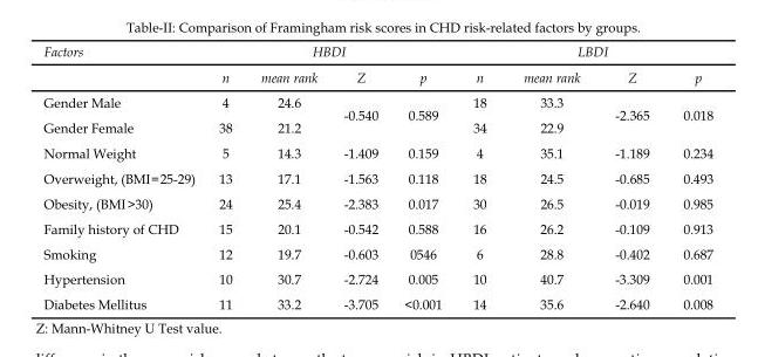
<table><thead><tr><td rowspan="2">Factors</td><td colspan="4">HBDI</td><td colspan="4">LBDI</td></tr><tr><td>n</td><td>mean rank</td><td>Z</td><td>p</td><td>n</td><td>mean rank</td><td>Z</td><td>p</td></tr></thead><tbody><tr><td>Gender Male</td><td>4</td><td>24.6</td><td rowspan="2">-0.540</td><td rowspan="2">0.589</td><td>18</td><td>33.3</td><td rowspan="2">-2.365</td><td rowspan="2">0.018</td></tr><tr><td>Gender Female</td><td>38</td><td>21.2</td><td>34</td><td>22.9</td></tr><tr><td>Normal Weight</td><td>5</td><td>14.3</td><td>-1.409</td><td>0.159</td><td>4</td><td>35.1</td><td>-1.189</td><td>0.234</td></tr><tr><td>Overweight, (BMI=25-29)</td><td>13</td><td>17.1</td><td>-1.563</td><td>0.118</td><td>18</td><td>24.5</td><td>-0.685</td><td>0.493</td></tr><tr><td>Obesity, (BMI&gt;30)</td><td>24</td><td>25.4</td><td>-2.383</td><td>0.017</td><td>30</td><td>26.5</td><td>-0.019</td><td>0.985</td></tr><tr><td>Family history of CHD</td><td>15</td><td>20.1</td><td>-0.542</td><td>0.588</td><td>16</td><td>26.2</td><td>-0.109</td><td>0.913</td></tr><tr><td>Smoking</td><td>12</td><td>19.7</td><td>-0.603</td><td>0546</td><td>6</td><td>28.8</td><td>-0.402</td><td>0.687</td></tr><tr><td>Hypertension</td><td>10</td><td>30.7</td><td>-2.724</td><td>0.005</td><td>10</td><td>40.7</td><td>-3.309</td><td>0.001</td></tr><tr><td>Diabetes Mellitus</td><td>11</td><td>33.2</td><td>-3.705</td><td>&lt;0.001</td><td>14</td><td>35.6</td><td>-2.640</td><td>0.008</td></tr></tbody></table>